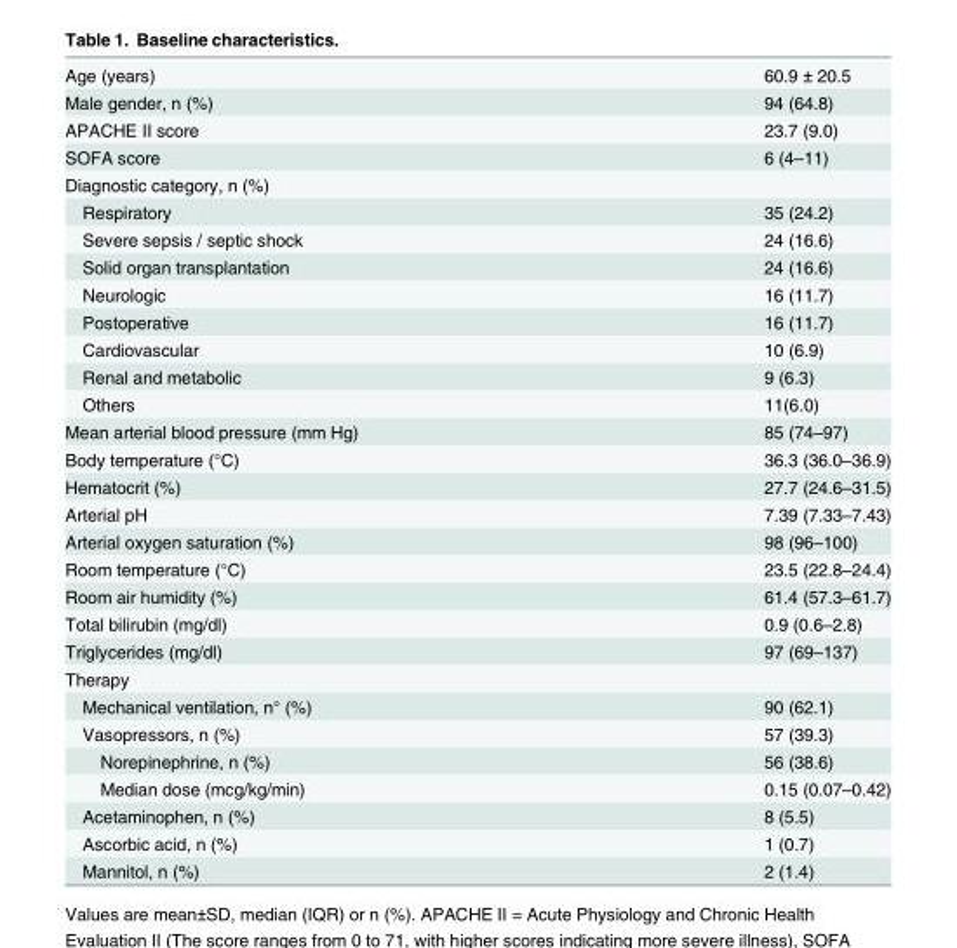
<table><tbody><tr><td>Age (years)</td><td>60.9 ± 20.5</td></tr><tr><td>Male gender, n (%)</td><td>94 (64.8)</td></tr><tr><td>APACHE II score</td><td>23.7 (9.0)</td></tr><tr><td>SOFA score</td><td>6 (4–11)</td></tr><tr><td colspan="2">Diagnostic category, n (%)</td></tr><tr><td>Respiratory</td><td>35 (24.2)</td></tr><tr><td>Severe sepsis / septic shock</td><td>24 (16.6)</td></tr><tr><td>Solid organ transplantation</td><td>24 (16.6)</td></tr><tr><td>Neurologic</td><td>16 (11.7)</td></tr><tr><td>Postoperative</td><td>16 (11.7)</td></tr><tr><td>Cardiovascular</td><td>10 (6.9)</td></tr><tr><td>Renal and metabolic</td><td>9 (6.3)</td></tr><tr><td>Others</td><td>11(6.0)</td></tr><tr><td>Mean arterial blood pressure (mm Hg)</td><td>85 (74–97)</td></tr><tr><td>Body temperature (°C)</td><td>36.3 (36.0–36.9)</td></tr><tr><td>Hematocrit (%)</td><td>27.7 (24.6–31.5)</td></tr><tr><td>Arterial pH</td><td>7.39 (7.33–7.43)</td></tr><tr><td>Arterial oxygen saturation (%)</td><td>98 (96–100)</td></tr><tr><td>Room temperature (°C)</td><td>23.5 (22.8–24.4)</td></tr><tr><td>Room air humidity (%)</td><td>61.4 (57.3–61.7)</td></tr><tr><td>Total bilirubin (mg/dl)</td><td>0.9 (0.6–2.8)</td></tr><tr><td>Triglycerides (mg/dl)</td><td>97 (69–137)</td></tr><tr><td colspan="2">Therapy</td></tr><tr><td>Mechanical ventilation, n° (%)</td><td>90 (62.1)</td></tr><tr><td>Vasopressors, n (%)</td><td>57 (39.3)</td></tr><tr><td>Norepinephrine, n (%)</td><td>56 (38.6)</td></tr><tr><td>Median dose (mcg/kg/min)</td><td>0.15 (0.07–0.42)</td></tr><tr><td>Acetaminophen, n (%)</td><td>8 (5.5)</td></tr><tr><td>Ascorbic acid, n (%)</td><td>1 (0.7)</td></tr><tr><td>Mannitol, n (%)</td><td>2 (1.4)</td></tr></tbody></table>